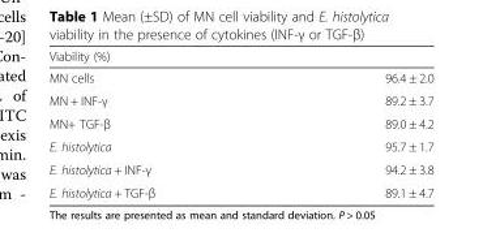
<table><thead><tr><td>Viability (%)</td><td></td></tr></thead><tbody><tr><td>MN cells</td><td>96.4 ± 2.0</td></tr><tr><td>MN + INF-γ</td><td>89.2 ± 3.7</td></tr><tr><td>MN+ TGF-β</td><td>89.0 ± 4.2</td></tr><tr><td>E. histolytica</td><td>95.7 ± 1.7</td></tr><tr><td>E. histolytica + INF-γ</td><td>94.2 ± 3.8</td></tr><tr><td>E. histolytica + TGF-β</td><td>89.1 ± 4.7</td></tr></tbody></table>